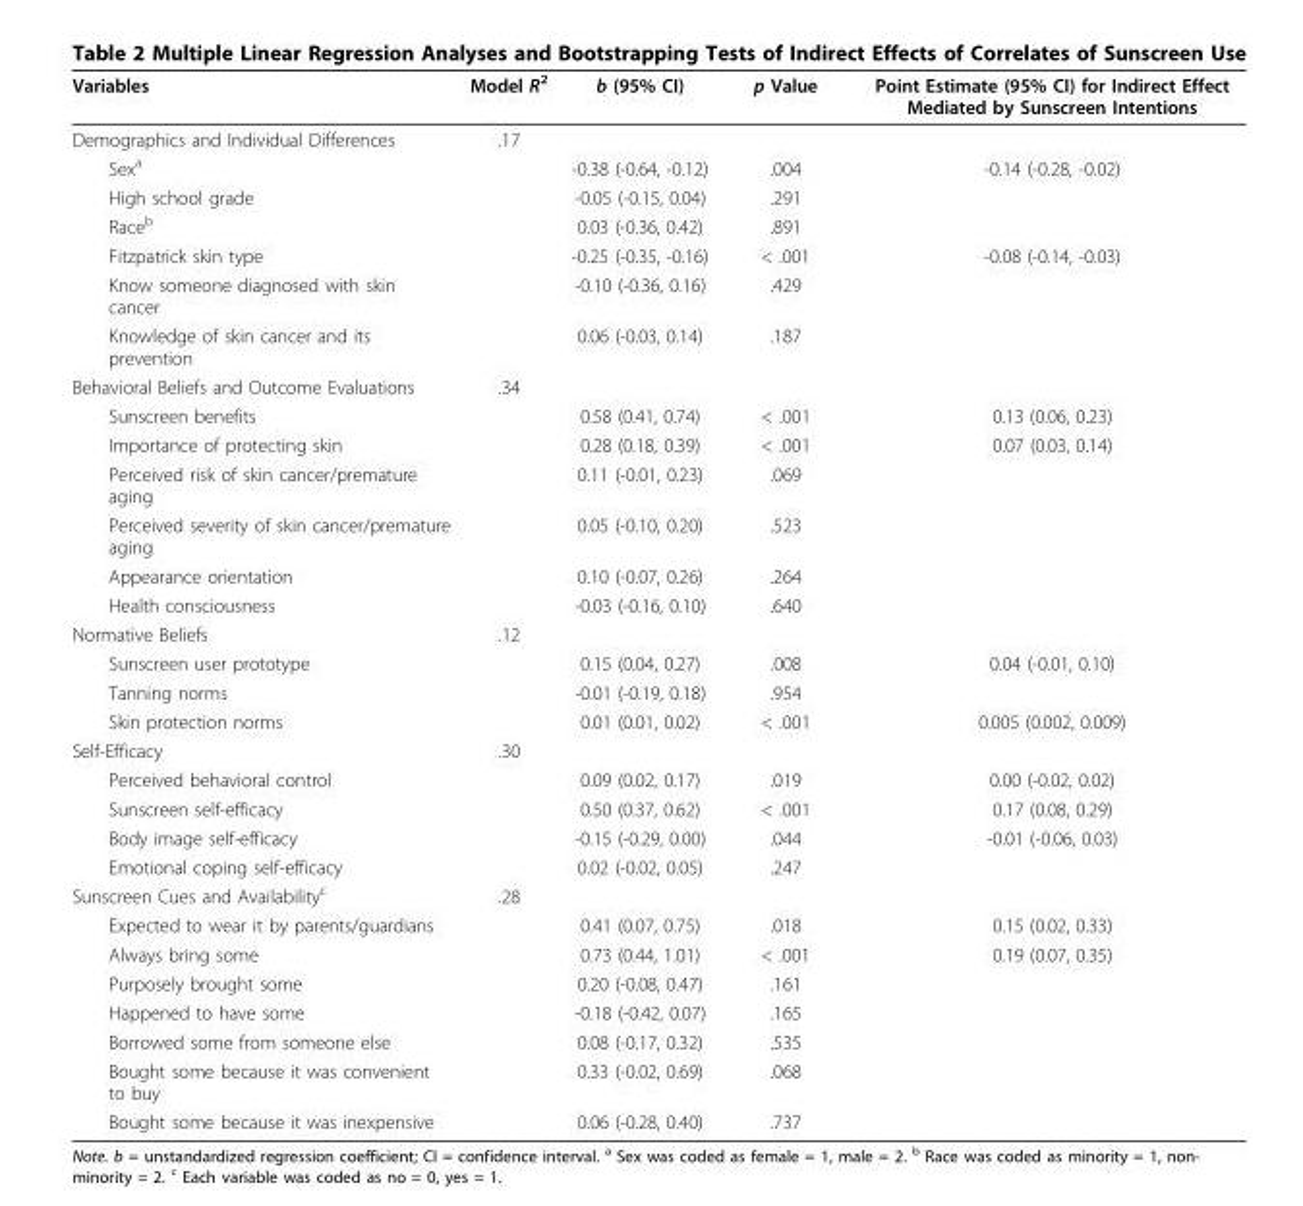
<table><thead><tr><td>Variables</td><td>Model R<sup>2</sup></td><td>b (95% CI)</td><td>p Value</td><td>Point Estimate (95% CI) for Indirect Effect Mediated by Sunscreen Intentions</td></tr></thead><tbody><tr><td>Demographics and Individual Differences</td><td>.17</td><td></td><td></td><td></td></tr><tr><td>Sex<sup>a</sup></td><td></td><td>-0.38 (-0.64, -0.12)</td><td>.004</td><td>-0.14 (-0.28, -0.02)</td></tr><tr><td>High school grade</td><td></td><td>-0.05 (-0.15, 0.04)</td><td>.291</td><td></td></tr><tr><td>Race<sup>b</sup></td><td></td><td>0.03 (-0.36, 0.42)</td><td>.891</td><td></td></tr><tr><td>Fitzpatrick skin type</td><td></td><td>-0.25 (-0.35, -0.16)</td><td>&lt; .001</td><td>-0.08 (-0.14, -0.03)</td></tr><tr><td>Know someone diagnosed with skin cancer</td><td></td><td>-0.10 (-0.36, 0.16)</td><td>.429</td><td></td></tr><tr><td>Knowledge of skin cancer and its prevention</td><td></td><td>0.06 (-0.03, 0.14)</td><td>.187</td><td></td></tr><tr><td>Behavioral Beliefs and Outcome Evaluations</td><td>.34</td><td></td><td></td><td></td></tr><tr><td>Sunscreen benefits</td><td></td><td>0.58 (0.41, 0.74)</td><td>&lt; .001</td><td>0.13 (0.06, 0.23)</td></tr><tr><td>Importance of protecting skin</td><td></td><td>0.28 (0.18, 0.39)</td><td>&lt; .001</td><td>0.07 (0.03, 0.14)</td></tr><tr><td>Perceived risk of skin cancer/premature aging</td><td></td><td>0.11 (-0.01, 0.23)</td><td>.069</td><td></td></tr><tr><td>Perceived severity of skin cancer/premature aging</td><td></td><td>0.05 (-0.10, 0.20)</td><td>.523</td><td></td></tr><tr><td>Appearance orientation</td><td></td><td>0.10 (-0.07, 0.26)</td><td>.264</td><td></td></tr><tr><td>Health consciousness</td><td></td><td>-0.03 (-0.16, 0.10)</td><td>.640</td><td></td></tr><tr><td>Normative Beliefs</td><td>.12</td><td></td><td></td><td></td></tr><tr><td>Sunscreen user prototype</td><td></td><td>0.15 (0.04, 0.27)</td><td>.008</td><td>0.04 (-0.01, 0.10)</td></tr><tr><td>Tanning norms</td><td></td><td>-0.01 (-0.19, 0.18)</td><td>.954</td><td></td></tr><tr><td>Skin protection norms</td><td></td><td>0.01 (0.01, 0.02)</td><td>&lt; .001</td><td>0.005 (0.002, 0.009)</td></tr><tr><td>Self-Efficacy</td><td>.30</td><td></td><td></td><td></td></tr><tr><td>Perceived behavioral control</td><td></td><td>0.09 (0.02, 0.17)</td><td>.019</td><td>0.00 (-0.02, 0.02)</td></tr><tr><td>Sunscreen self-efficacy</td><td></td><td>0.50 (0.37, 0.62)</td><td>&lt; .001</td><td>0.17 (0.08, 0.29)</td></tr><tr><td>Body image self-efficacy</td><td></td><td>-0.15 (-0.29, 0.00)</td><td>.044</td><td>-0.01 (-0.06, 0.03)</td></tr><tr><td>Emotional coping self-efficacy</td><td></td><td>0.02 (-0.02, 0.05)</td><td>.247</td><td></td></tr><tr><td>Sunscreen Cues and Availability<sup>c</sup></td><td>.28</td><td></td><td></td><td></td></tr><tr><td>Expected to wear it by parents/guardians</td><td></td><td>0.41 (0.07, 0.75)</td><td>.018</td><td>0.15 (0.02, 0.33)</td></tr><tr><td>Always bring some</td><td></td><td>0.73 (0.44, 1.01)</td><td>&lt; .001</td><td>0.19 (0.07, 0.35)</td></tr><tr><td>Purposely brought some</td><td></td><td>0.20 (-0.08, 0.47)</td><td>.161</td><td></td></tr><tr><td>Happened to have some</td><td></td><td>-0.18 (-0.42, 0.07)</td><td>.165</td><td></td></tr><tr><td>Borrowed some from someone else</td><td></td><td>0.08 (-0.17, 0.32)</td><td>.535</td><td></td></tr><tr><td>Bought some because it was convenient to buy</td><td></td><td>0.33 (-0.02, 0.69)</td><td>.068</td><td></td></tr><tr><td>Bought some because it was inexpensive</td><td></td><td>0.06 (-0.28, 0.40)</td><td>.737</td><td></td></tr></tbody></table>